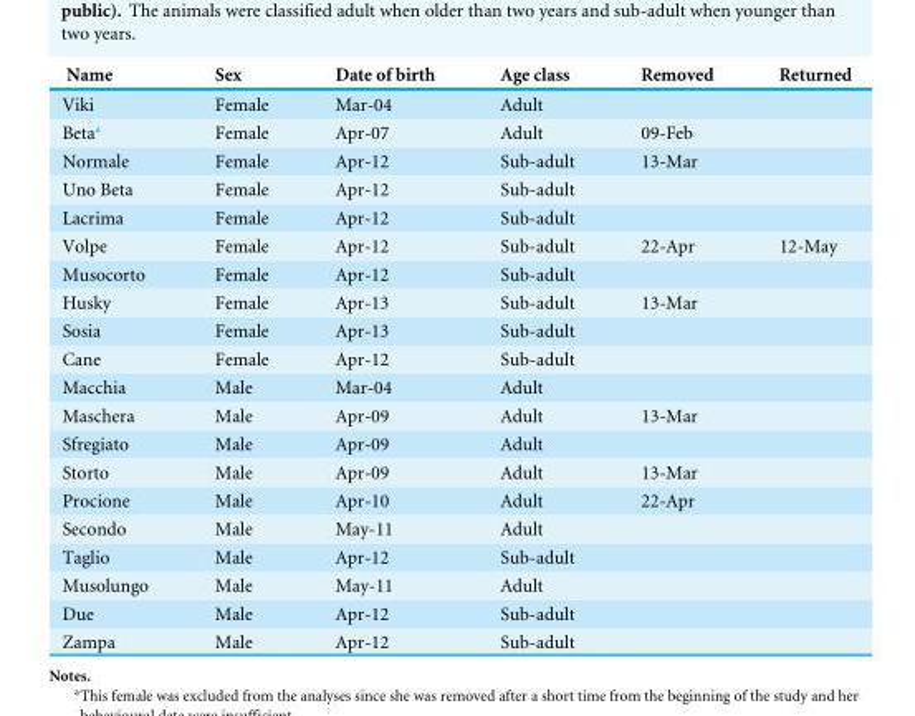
<table><thead><tr><td>Name</td><td>Sex</td><td>Date of birth</td><td>Age class</td><td>Removed</td><td>Returned</td></tr></thead><tbody><tr><td>Viki</td><td>Female</td><td>Mar-04</td><td>Adult</td><td></td><td></td></tr><tr><td>Beta<sup>a</sup></td><td>Female</td><td>Apr-07</td><td>Adult</td><td>09-Feb</td><td></td></tr><tr><td>Normale</td><td>Female</td><td>Apr-12</td><td>Sub-adult</td><td>13-Mar</td><td></td></tr><tr><td>Uno Beta</td><td>Female</td><td>Apr-12</td><td>Sub-adult</td><td></td><td></td></tr><tr><td>Lacrima</td><td>Female</td><td>Apr-12</td><td>Sub-adult</td><td></td><td></td></tr><tr><td>Volpe</td><td>Female</td><td>Apr-12</td><td>Sub-adult</td><td>22-Apr</td><td>12-May</td></tr><tr><td>Musocorto</td><td>Female</td><td>Apr-12</td><td>Sub-adult</td><td></td><td></td></tr><tr><td>Husky</td><td>Female</td><td>Apr-13</td><td>Sub-adult</td><td>13-Mar</td><td></td></tr><tr><td>Sosia</td><td>Female</td><td>Apr-13</td><td>Sub-adult</td><td></td><td></td></tr><tr><td>Cane</td><td>Female</td><td>Apr-12</td><td>Sub-adult</td><td></td><td></td></tr><tr><td>Macchia</td><td>Male</td><td>Mar-04</td><td>Adult</td><td></td><td></td></tr><tr><td>Maschera</td><td>Male</td><td>Apr-09</td><td>Adult</td><td>13-Mar</td><td></td></tr><tr><td>Sfregiato</td><td>Male</td><td>Apr-09</td><td>Adult</td><td></td><td></td></tr><tr><td>Storto</td><td>Male</td><td>Apr-09</td><td>Adult</td><td>13-Mar</td><td></td></tr><tr><td>Procione</td><td>Male</td><td>Apr-10</td><td>Adult</td><td>22-Apr</td><td></td></tr><tr><td>Secondo</td><td>Male</td><td>May-11</td><td>Adult</td><td></td><td></td></tr><tr><td>Taglio</td><td>Male</td><td>Apr-12</td><td>Sub-adult</td><td></td><td></td></tr><tr><td>Musolungo</td><td>Male</td><td>May-11</td><td>Adult</td><td></td><td></td></tr><tr><td>Due</td><td>Male</td><td>Apr-12</td><td>Sub-adult</td><td></td><td></td></tr><tr><td>Zampa</td><td>Male</td><td>Apr-12</td><td>Sub-adult</td><td></td><td></td></tr></tbody></table>